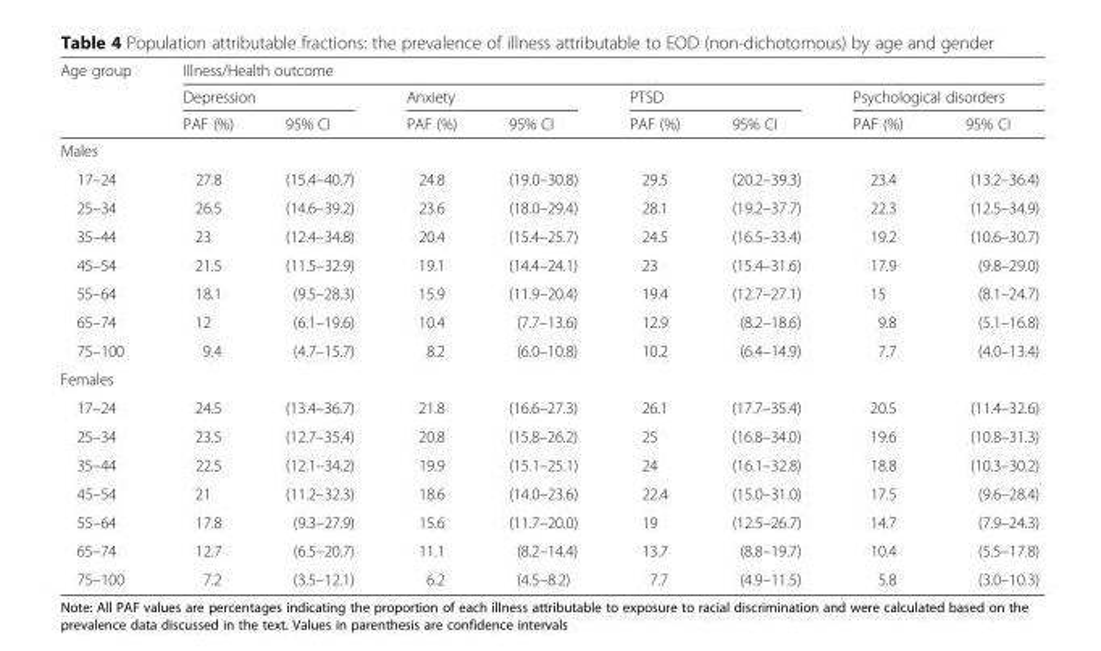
<table><thead><tr><td rowspan="3">Age group</td><td colspan="8">Illness/Health outcome</td></tr><tr><td colspan="2">Depression</td><td colspan="2">Anxiety</td><td colspan="2">PTSD</td><td colspan="2">Psychological disorders</td></tr><tr><td>PAF (%)</td><td>95% CI</td><td>PAF (%)</td><td>95% CI</td><td>PAF (%)</td><td>95% CI</td><td>PAF (%)</td><td>95% CI</td></tr></thead><tbody><tr><td colspan="9">Males</td></tr><tr><td>17–24</td><td>27.8</td><td>(15.4–40.7)</td><td>24.8</td><td>(19.0–30.8)</td><td>29.5</td><td>(20.2–39.3)</td><td>23.4</td><td>(13.2–36.4)</td></tr><tr><td>25–34</td><td>26.5</td><td>(14.6–39.2)</td><td>23.6</td><td>(18.0–29.4)</td><td>28.1</td><td>(19.2–37.7)</td><td>22.3</td><td>(12.5–34.9)</td></tr><tr><td>35–44</td><td>23</td><td>(12.4–34.8)</td><td>20.4</td><td>(15.4–25.7)</td><td>24.5</td><td>(16.5–33.4)</td><td>19.2</td><td>(10.6–30.7)</td></tr><tr><td>45–54</td><td>21.5</td><td>(11.5–32.9)</td><td>19.1</td><td>(14.4–24.1)</td><td>23</td><td>(15.4–31.6)</td><td>17.9</td><td>(9.8–29.0)</td></tr><tr><td>55–64</td><td>18.1</td><td>(9.5–28.3)</td><td>15.9</td><td>(11.9–20.4)</td><td>19.4</td><td>(12.7–27.1)</td><td>15</td><td>(8.1–24.7)</td></tr><tr><td>65–74</td><td>12</td><td>(6.1–19.6)</td><td>10.4</td><td>(7.7–13.6)</td><td>12.9</td><td>(8.2–18.6)</td><td>9.8</td><td>(5.1–16.8)</td></tr><tr><td>75–100</td><td>9.4</td><td>(4.7–15.7)</td><td>8.2</td><td>(6.0–10.8)</td><td>10.2</td><td>(6.4–14.9)</td><td>7.7</td><td>(4.0–13.4)</td></tr><tr><td colspan="9">Females</td></tr><tr><td>17–24</td><td>24.5</td><td>(13.4–36.7)</td><td>21.8</td><td>(16.6–27.3)</td><td>26.1</td><td>(17.7–35.4)</td><td>20.5</td><td>(11.4–32.6)</td></tr><tr><td>25–34</td><td>23.5</td><td>(12.7–35.4)</td><td>20.8</td><td>(15.8–26.2)</td><td>25</td><td>(16.8–34.0)</td><td>19.6</td><td>(10.8–31.3)</td></tr><tr><td>35–44</td><td>22.5</td><td>(12.1–34.2)</td><td>19.9</td><td>(15.1–25.1)</td><td>24</td><td>(16.1–32.8)</td><td>18.8</td><td>(10.3–30.2)</td></tr><tr><td>45–54</td><td>21</td><td>(11.2–32.3)</td><td>18.6</td><td>(14.0–23.6)</td><td>22.4</td><td>(15.0–31.0)</td><td>17.5</td><td>(9.6–28.4)</td></tr><tr><td>55–64</td><td>17.8</td><td>(9.3–27.9)</td><td>15.6</td><td>(11.7–20.0)</td><td>19</td><td>(12.5–26.7)</td><td>14.7</td><td>(7.9–24.3)</td></tr><tr><td>65–74</td><td>12.7</td><td>(6.5–20.7)</td><td>11.1</td><td>(8.2–14.4)</td><td>13.7</td><td>(8.8–19.7)</td><td>10.4</td><td>(5.5–17.8)</td></tr><tr><td>75–100</td><td>7.2</td><td>(3.5–12.1)</td><td>6.2</td><td>(4.5–8.2)</td><td>7.7</td><td>(4.9–11.5)</td><td>5.8</td><td>(3.0–10.3)</td></tr></tbody></table>